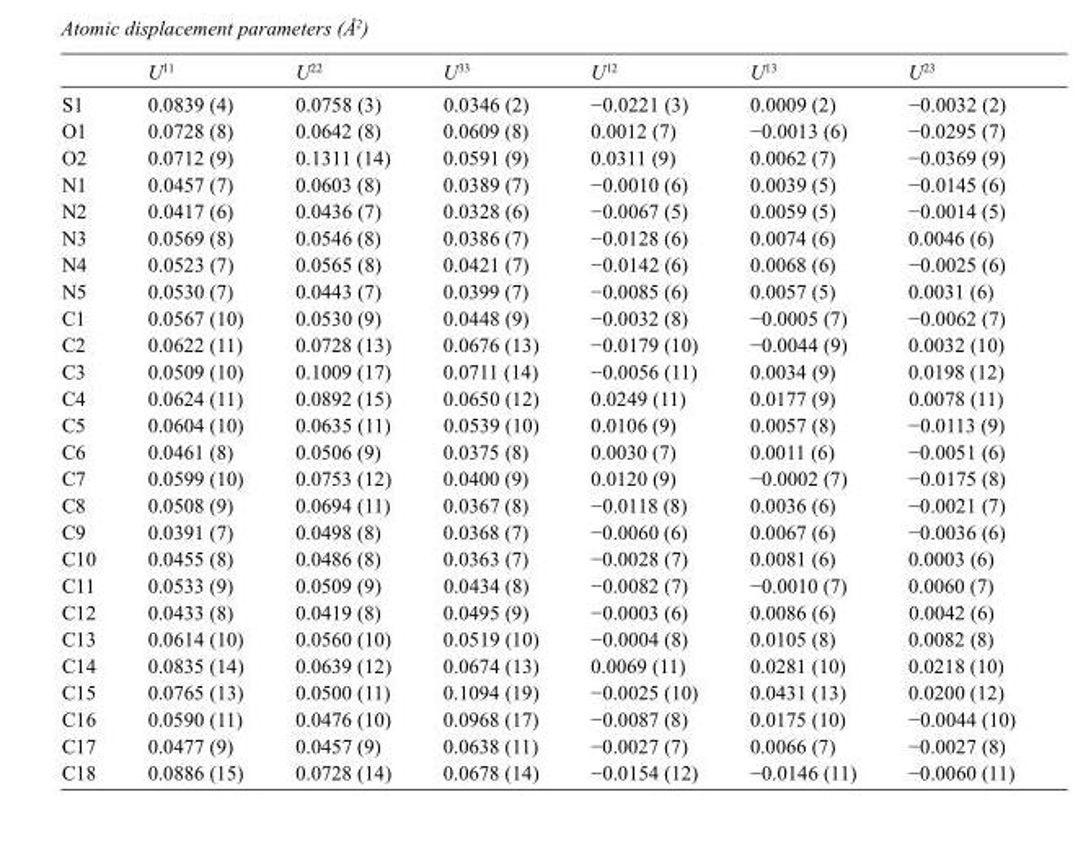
<table><thead><tr><td></td><td>U<sup>11</sup></td><td>U<sup>22</sup></td><td>U<sup>33</sup></td><td>U<sup>12</sup></td><td>U<sup>13</sup></td><td>U<sup>23</sup></td></tr></thead><tbody><tr><td>S1</td><td>0.0839 (4)</td><td>0.0758 (3)</td><td>0.0346 (2)</td><td>−0.0221 (3)</td><td>0.0009 (2)</td><td>−0.0032 (2)</td></tr><tr><td>O1</td><td>0.0728 (8)</td><td>0.0642 (8)</td><td>0.0609 (8)</td><td>0.0012 (7)</td><td>−0.0013 (6)</td><td>−0.0295 (7)</td></tr><tr><td>O2</td><td>0.0712 (9)</td><td>0.1311 (14)</td><td>0.0591 (9)</td><td>0.0311 (9)</td><td>0.0062 (7)</td><td>−0.0369 (9)</td></tr><tr><td>N1</td><td>0.0457 (7)</td><td>0.0603 (8)</td><td>0.0389 (7)</td><td>−0.0010 (6)</td><td>0.0039 (5)</td><td>−0.0145 (6)</td></tr><tr><td>N2</td><td>0.0417 (6)</td><td>0.0436 (7)</td><td>0.0328 (6)</td><td>−0.0067 (5)</td><td>0.0059 (5)</td><td>−0.0014 (5)</td></tr><tr><td>N3</td><td>0.0569 (8)</td><td>0.0546 (8)</td><td>0.0386 (7)</td><td>−0.0128 (6)</td><td>0.0074 (6)</td><td>0.0046 (6)</td></tr><tr><td>N4</td><td>0.0523 (7)</td><td>0.0565 (8)</td><td>0.0421 (7)</td><td>−0.0142 (6)</td><td>0.0068 (6)</td><td>−0.0025 (6)</td></tr><tr><td>N5</td><td>0.0530 (7)</td><td>0.0443 (7)</td><td>0.0399 (7)</td><td>−0.0085 (6)</td><td>0.0057 (5)</td><td>0.0031 (6)</td></tr><tr><td>C1</td><td>0.0567 (10)</td><td>0.0530 (9)</td><td>0.0448 (9)</td><td>−0.0032 (8)</td><td>−0.0005 (7)</td><td>−0.0062 (7)</td></tr><tr><td>C2</td><td>0.0622 (11)</td><td>0.0728 (13)</td><td>0.0676 (13)</td><td>−0.0179 (10)</td><td>−0.0044 (9)</td><td>0.0032 (10)</td></tr><tr><td>C3</td><td>0.0509 (10)</td><td>0.1009 (17)</td><td>0.0711 (14)</td><td>−0.0056 (11)</td><td>0.0034 (9)</td><td>0.0198 (12)</td></tr><tr><td>C4</td><td>0.0624 (11)</td><td>0.0892 (15)</td><td>0.0650 (12)</td><td>0.0249 (11)</td><td>0.0177 (9)</td><td>0.0078 (11)</td></tr><tr><td>C5</td><td>0.0604 (10)</td><td>0.0635 (11)</td><td>0.0539 (10)</td><td>0.0106 (9)</td><td>0.0057 (8)</td><td>−0.0113 (9)</td></tr><tr><td>C6</td><td>0.0461 (8)</td><td>0.0506 (9)</td><td>0.0375 (8)</td><td>0.0030 (7)</td><td>0.0011 (6)</td><td>−0.0051 (6)</td></tr><tr><td>C7</td><td>0.0599 (10)</td><td>0.0753 (12)</td><td>0.0400 (9)</td><td>0.0120 (9)</td><td>−0.0002 (7)</td><td>−0.0175 (8)</td></tr><tr><td>C8</td><td>0.0508 (9)</td><td>0.0694 (11)</td><td>0.0367 (8)</td><td>−0.0118 (8)</td><td>0.0036 (6)</td><td>−0.0021 (7)</td></tr><tr><td>C9</td><td>0.0391 (7)</td><td>0.0498 (8)</td><td>0.0368 (7)</td><td>−0.0060 (6)</td><td>0.0067 (6)</td><td>−0.0036 (6)</td></tr><tr><td>C10</td><td>0.0455 (8)</td><td>0.0486 (8)</td><td>0.0363 (7)</td><td>−0.0028 (7)</td><td>0.0081 (6)</td><td>0.0003 (6)</td></tr><tr><td>C11</td><td>0.0533 (9)</td><td>0.0509 (9)</td><td>0.0434 (8)</td><td>−0.0082 (7)</td><td>−0.0010 (7)</td><td>0.0060 (7)</td></tr><tr><td>C12</td><td>0.0433 (8)</td><td>0.0419 (8)</td><td>0.0495 (9)</td><td>−0.0003 (6)</td><td>0.0086 (6)</td><td>0.0042 (6)</td></tr><tr><td>C13</td><td>0.0614 (10)</td><td>0.0560 (10)</td><td>0.0519 (10)</td><td>−0.0004 (8)</td><td>0.0105 (8)</td><td>0.0082 (8)</td></tr><tr><td>C14</td><td>0.0835 (14)</td><td>0.0639 (12)</td><td>0.0674 (13)</td><td>0.0069 (11)</td><td>0.0281 (10)</td><td>0.0218 (10)</td></tr><tr><td>C15</td><td>0.0765 (13)</td><td>0.0500 (11)</td><td>0.1094 (19)</td><td>−0.0025 (10)</td><td>0.0431 (13)</td><td>0.0200 (12)</td></tr><tr><td>C16</td><td>0.0590 (11)</td><td>0.0476 (10)</td><td>0.0968 (17)</td><td>−0.0087 (8)</td><td>0.0175 (10)</td><td>−0.0044 (10)</td></tr><tr><td>C17</td><td>0.0477 (9)</td><td>0.0457 (9)</td><td>0.0638 (11)</td><td>−0.0027 (7)</td><td>0.0066 (7)</td><td>−0.0027 (8)</td></tr><tr><td>C18</td><td>0.0886 (15)</td><td>0.0728 (14)</td><td>0.0678 (14)</td><td>−0.0154 (12)</td><td>−0.0146 (11)</td><td>−0.0060 (11)</td></tr></tbody></table>